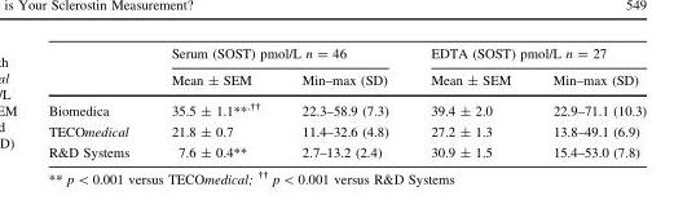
<table><thead><tr><td rowspan="2"></td><td colspan="2">Serum (SOST) pmol/L n = 46</td><td colspan="2">EDTA (SOST) pmol/L n = 27</td></tr><tr><td>Mean ± SEM</td><td>Min–max (SD)</td><td>Mean ± SEM</td><td>Min–max (SD)</td></tr></thead><tbody><tr><td>Biomedica</td><td>35.5 ± 1.1**<sup>,††</sup></td><td>22.3–58.9 (7.3)</td><td>39.4 ± 2.0</td><td>22.9–71.1 (10.3)</td></tr><tr><td>TECOmedical</td><td>21.8 ± 0.7</td><td>11.4–32.6 (4.8)</td><td>27.2 ± 1.3</td><td>13.8–49.1 (6.9)</td></tr><tr><td>R&amp;D Systems</td><td>7.6 ± 0.4**</td><td>2.7–13.2 (2.4)</td><td>30.9 ± 1.5</td><td>15.4–53.0 (7.8)</td></tr></tbody></table>